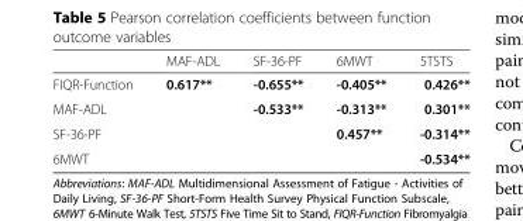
<table><thead><tr><td></td><td>MAF-ADL</td><td>SF-36-PF</td><td>6MWT</td><td>5TSTS</td></tr></thead><tbody><tr><td>FIQR-Function</td><td>0.617**</td><td>-0.655**</td><td>-0.405**</td><td>0.426**</td></tr><tr><td>MAF-ADL</td><td></td><td>-0.533**</td><td>-0.313**</td><td>0.301**</td></tr><tr><td>SF-36-PF</td><td></td><td></td><td>0.457**</td><td>-0.314**</td></tr><tr><td>6MWT</td><td></td><td></td><td></td><td>-0.534**</td></tr></tbody></table>